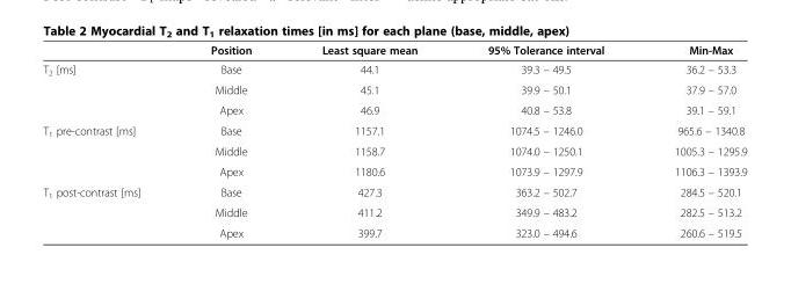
<table><thead><tr><td></td><td>Position</td><td>Least square mean</td><td>95% Tolerance interval</td><td>Min-Max</td></tr></thead><tbody><tr><td rowspan="3">T<sub>2</sub> [ms]</td><td>Base</td><td>44.1</td><td>39.3 – 49.5</td><td>36.2 – 53.3</td></tr><tr><td>Middle</td><td>45.1</td><td>39.9 – 50.1</td><td>37.9 – 57.0</td></tr><tr><td>Apex</td><td>46.9</td><td>40.8 – 53.8</td><td>39.1 – 59.1</td></tr><tr><td rowspan="3">T<sub>1</sub> pre-contrast [ms]</td><td>Base</td><td>1157.1</td><td>1074.5 – 1246.0</td><td>965.6 – 1340.8</td></tr><tr><td>Middle</td><td>1158.7</td><td>1074.0 – 1250.1</td><td>1005.3 – 1295.9</td></tr><tr><td>Apex</td><td>1180.6</td><td>1073.9 – 1297.9</td><td>1106.3 – 1393.9</td></tr><tr><td rowspan="3">T<sub>1</sub> post-contrast [ms]</td><td>Base</td><td>427.3</td><td>363.2 – 502.7</td><td>284.5 – 520.1</td></tr><tr><td>Middle</td><td>411.2</td><td>349.9 – 483.2</td><td>282.5 – 513.2</td></tr><tr><td>Apex</td><td>399.7</td><td>323.0 – 494.6</td><td>260.6 – 519.5</td></tr></tbody></table>